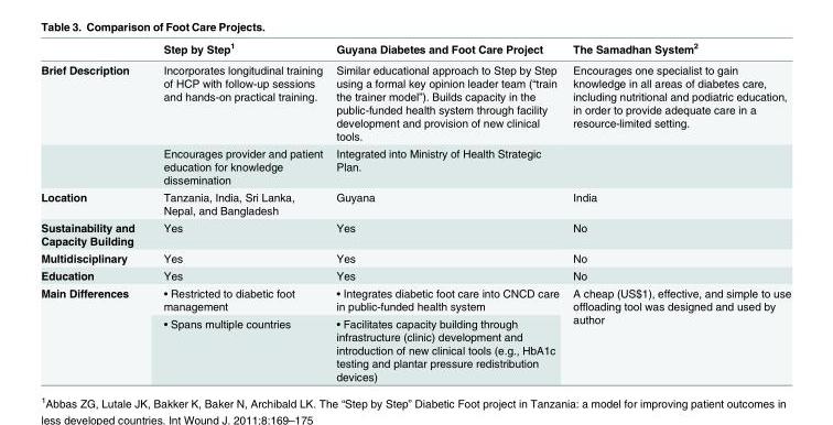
<table><thead><tr><td></td><td>Step by Step<sup>1</sup></td><td>Guyana Diabetes and Foot Care Project</td><td>The Samadhan System<sup>2</sup></td></tr></thead><tbody><tr><td rowspan="2">Brief Description</td><td>Incorporates longitudinal training of HCP with follow-up sessions and hands-on practical training.</td><td>Similar educational approach to Step by Step using a formal key opinion leader team (“train the trainer model”). Builds capacity in the public-funded health system through facility development and provision of new clinical tools.</td><td>Encourages one specialist to gain knowledge in all areas of diabetes care, including nutritional and podiatric education, in order to provide adequate care in a resource-limited setting.</td></tr><tr><td>Encourages provider and patient education for knowledge dissemination</td><td>Integrated into Ministry of Health Strategic Plan.</td><td></td></tr><tr><td>Location</td><td>Tanzania, India, Sri Lanka, Nepal, and Bangladesh</td><td>Guyana</td><td>India</td></tr><tr><td>Sustainability and Capacity Building</td><td>Yes</td><td>Yes</td><td>No</td></tr><tr><td>Multidisciplinary</td><td>Yes</td><td>Yes</td><td>No</td></tr><tr><td>Education</td><td>Yes</td><td>Yes</td><td>No</td></tr><tr><td rowspan="2">Main Differences</td><td>• Restricted to diabetic foot management</td><td>• Integrates diabetic foot care into CNCD care in public-funded health system</td><td rowspan="2">A cheap (US$1), effective, and simple to use offloading tool was designed and used by author</td></tr><tr><td>• Spans multiple countries</td><td>• Facilitates capacity building through infrastructure (clinic) development and introduction of new clinical tools (e.g., HbA1c testing and plantar pressure redistribution devices)</td></tr></tbody></table>